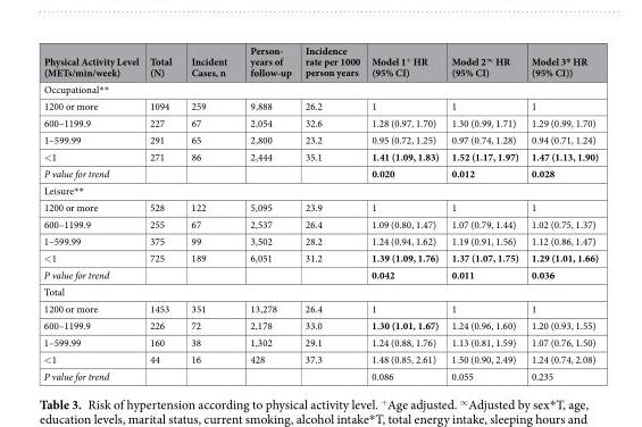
<table><thead><tr><td>Physical Activity Level (METs/min/week)</td><td>Total (N)</td><td>Incident Cases, n</td><td>Person- years of follow-up</td><td>Incidence rate per 1000 person years</td><td>Model 1<sup>+</sup> HR (95% CI)</td><td>Model 2<sup>∞</sup> HR (95% CI)</td><td>Model 3* HR (95% CI))</td></tr></thead><tbody><tr><td colspan="8">Occupational**</td></tr><tr><td>1200 or more</td><td>1094</td><td>259</td><td>9,888</td><td>26.2</td><td>1</td><td>1</td><td>1</td></tr><tr><td>600–1199.9</td><td>227</td><td>67</td><td>2,054</td><td>32.6</td><td>1.28 (0.97, 1.70)</td><td>1.30 (0.99, 1.71)</td><td>1.29 (0.99, 1.70)</td></tr><tr><td>1–599.99</td><td>291</td><td>65</td><td>2,800</td><td>23.2</td><td>0.95 (0.72, 1.25)</td><td>0.97 (0.74, 1.28)</td><td>0.94 (0.71, 1.24)</td></tr><tr><td>&lt;1</td><td>271</td><td>86</td><td>2,444</td><td>35.1</td><td>1.41 (1.09, 1.83)</td><td>1.52 (1.17, 1.97)</td><td>1.47 (1.13, 1.90)</td></tr><tr><td>P value for trend</td><td></td><td></td><td></td><td></td><td>0.020</td><td>0.012</td><td>0.028</td></tr><tr><td colspan="8">Leisure**</td></tr><tr><td>1200 or more</td><td>528</td><td>122</td><td>5,095</td><td>23.9</td><td>1</td><td>1</td><td>1</td></tr><tr><td>600–1199.9</td><td>255</td><td>67</td><td>2,537</td><td>26.4</td><td>1.09 (0.80, 1.47)</td><td>1.07 (0.79, 1.44)</td><td>1.02 (0.75, 1.37)</td></tr><tr><td>1–599.99</td><td>375</td><td>99</td><td>3,502</td><td>28.2</td><td>1.24 (0.94, 1.62)</td><td>1.19 (0.91, 1.56)</td><td>1.12 (0.86, 1.47)</td></tr><tr><td>&lt;1</td><td>725</td><td>189</td><td>6,051</td><td>31.2</td><td>1.39 (1.09, 1.76)</td><td>1.37 (1.07, 1.75)</td><td>1.29 (1.01, 1.66)</td></tr><tr><td>P value for trend</td><td></td><td></td><td></td><td></td><td>0.042</td><td>0.011</td><td>0.036</td></tr><tr><td colspan="8">Total</td></tr><tr><td>1200 or more</td><td>1453</td><td>351</td><td>13,278</td><td>26.4</td><td>1</td><td>1</td><td>1</td></tr><tr><td>600–1199.9</td><td>226</td><td>72</td><td>2,178</td><td>33.0</td><td>1.30 (1.01, 1.67)</td><td>1.24 (0.96, 1.60)</td><td>1.20 (0.93, 1.55)</td></tr><tr><td>1–599.99</td><td>160</td><td>38</td><td>1,302</td><td>29.1</td><td>1.24 (0.88, 1.76)</td><td>1.13 (0.81, 1.59)</td><td>1.07 (0.76, 1.50)</td></tr><tr><td>&lt;1</td><td>44</td><td>16</td><td>428</td><td>37.3</td><td>1.48 (0.85, 2.61)</td><td>1.50 (0.90, 2.49)</td><td>1.24 (0.74, 2.08)</td></tr><tr><td>P value for trend</td><td></td><td></td><td></td><td></td><td>0.086</td><td>0.055</td><td>0.235</td></tr></tbody></table>